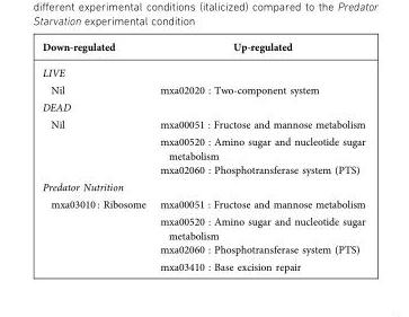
<table><thead><tr><td>Down-regulated</td><td>Up-regulated</td></tr></thead><tbody><tr><td colspan="2">LIVE</td></tr><tr><td>Nil</td><td>mxa02020 : Two-component system</td></tr><tr><td colspan="2">DEAD</td></tr><tr><td rowspan="3">Nil</td><td>mxa00051 : Fructose and mannose metabolism</td></tr><tr><td>mxa00520 : Amino sugar and nucleotide sugar metabolism</td></tr><tr><td>mxa02060 : Phosphotransferase system (PTS)</td></tr><tr><td colspan="2">Predator Nutrition</td></tr><tr><td rowspan="4">mxa03010 : Ribosome</td><td>mxa00051 : Fructose and mannose metabolism</td></tr><tr><td>mxa00520 : Amino sugar and nucleotide sugar metabolism</td></tr><tr><td>mxa02060 : Phosphotransferase system (PTS)</td></tr><tr><td>mxa03410 : Base excision repair</td></tr></tbody></table>